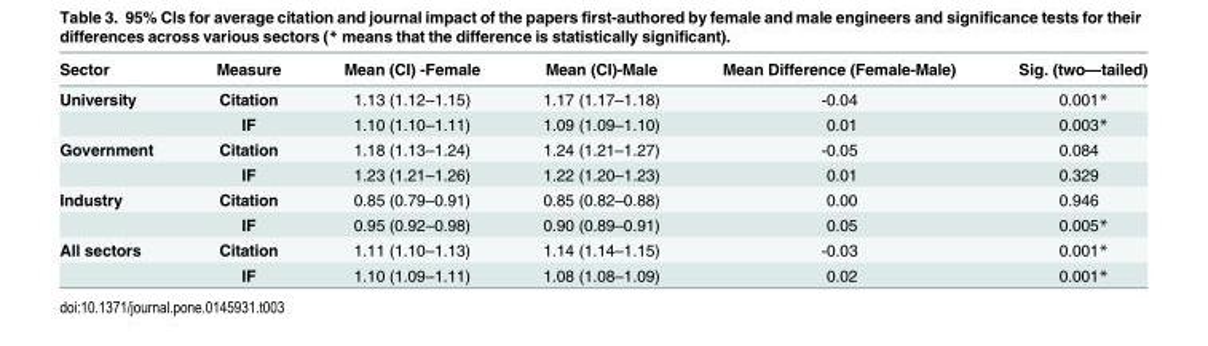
<table><thead><tr><td>Sector</td><td>Measure</td><td>Mean (CI) -Female</td><td>Mean (CI)-Male</td><td>Mean Difference (Female-Male)</td><td>Sig. (two—tailed)</td></tr></thead><tbody><tr><td rowspan="2">University</td><td>Citation</td><td>1.13 (1.12–1.15)</td><td>1.17 (1.17–1.18)</td><td>-0.04</td><td>0.001*</td></tr><tr><td>IF</td><td>1.10 (1.10–1.11)</td><td>1.09 (1.09–1.10)</td><td>0.01</td><td>0.003*</td></tr><tr><td rowspan="2">Government</td><td>Citation</td><td>1.18 (1.13–1.24)</td><td>1.24 (1.21–1.27)</td><td>-0.05</td><td>0.084</td></tr><tr><td>IF</td><td>1.23 (1.21–1.26)</td><td>1.22 (1.20–1.23)</td><td>0.01</td><td>0.329</td></tr><tr><td rowspan="2">Industry</td><td>Citation</td><td>0.85 (0.79–0.91)</td><td>0.85 (0.82–0.88)</td><td>0.00</td><td>0.946</td></tr><tr><td>IF</td><td>0.95 (0.92–0.98)</td><td>0.90 (0.89–0.91)</td><td>0.05</td><td>0.005*</td></tr><tr><td rowspan="2">All sectors</td><td>Citation</td><td>1.11 (1.10–1.13)</td><td>1.14 (1.14–1.15)</td><td>-0.03</td><td>0.001*</td></tr><tr><td>IF</td><td>1.10 (1.09–1.11)</td><td>1.08 (1.08–1.09)</td><td>0.02</td><td>0.001*</td></tr></tbody></table>